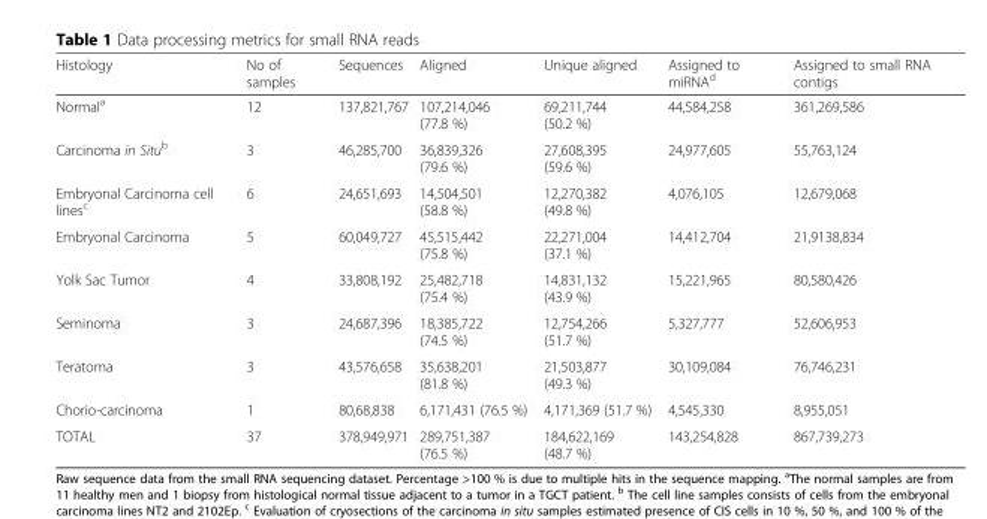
<table><thead><tr><td>Histology</td><td>No of samples</td><td>Sequences</td><td>Aligned</td><td>Unique aligned</td><td>Assigned to miRNA<sup>d</sup></td><td>Assigned to small RNA contigs</td></tr></thead><tbody><tr><td>Normal<sup>a</sup></td><td>12</td><td>137,821,767</td><td>107,214,046 (77.8 %)</td><td>69,211,744 (50.2 %)</td><td>44,584,258</td><td>361,269,586</td></tr><tr><td>Carcinoma in Situ<sup>b</sup></td><td>3</td><td>46,285,700</td><td>36,839,326 (79.6 %)</td><td>27,608,395 (59.6 %)</td><td>24,977,605</td><td>55,763,124</td></tr><tr><td>Embryonal Carcinoma cell lines<sup>c</sup></td><td>6</td><td>24,651,693</td><td>14,504,501 (58.8 %)</td><td>12,270,382 (49.8 %)</td><td>4,076,105</td><td>12,679,068</td></tr><tr><td>Embryonal Carcinoma</td><td>5</td><td>60,049,727</td><td>45,515,442 (75.8 %)</td><td>22,271,004 (37.1 %)</td><td>14,412,704</td><td>21,9138,834</td></tr><tr><td>Yolk Sac Tumor</td><td>4</td><td>33,808,192</td><td>25,482,718 (75.4 %)</td><td>14,831,132 (43.9 %)</td><td>15,221,965</td><td>80,580,426</td></tr><tr><td>Seminoma</td><td>3</td><td>24,687,396</td><td>18,385,722 (74.5 %)</td><td>12,754,266 (51.7 %)</td><td>5,327,777</td><td>52,606,953</td></tr><tr><td>Teratoma</td><td>3</td><td>43,576,658</td><td>35,638,201 (81.8 %)</td><td>21,503,877 (49.3 %)</td><td>30,109,084</td><td>76,746,231</td></tr><tr><td>Chorio-carcinoma</td><td>1</td><td>80,68,838</td><td>6,171,431 (76.5 %)</td><td>4,171,369 (51.7 %)</td><td>4,545,330</td><td>8,955,051</td></tr><tr><td>TOTAL</td><td>37</td><td>378,949,971</td><td>289,751,387 (76.5 %)</td><td>184,622,169 (48.7 %)</td><td>143,254,828</td><td>867,739,273</td></tr></tbody></table>